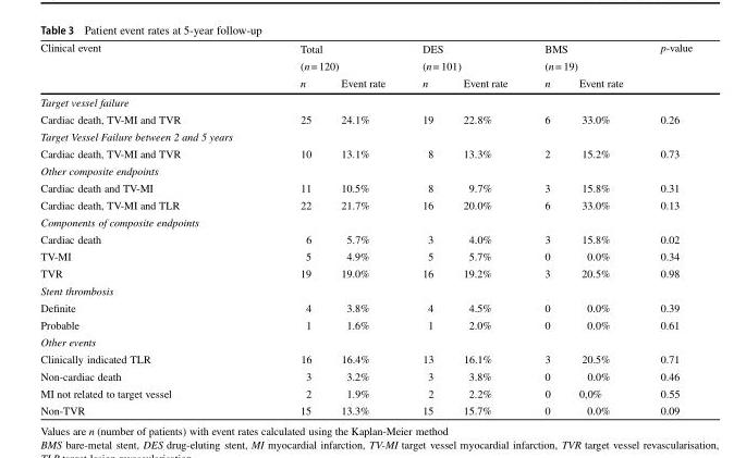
<table><thead><tr><td rowspan="3">Clinical event</td><td rowspan="2" colspan="2">Total (n= 120)</td><td rowspan="2" colspan="2">DES (n= 101)</td><td rowspan="2" colspan="2">BMS (n= 19)</td><td rowspan="3">p-value</td></tr><tr></tr><tr><td>n</td><td>Event rate</td><td>n</td><td>Event rate</td><td>n</td><td>Event rate</td></tr></thead><tbody><tr><td colspan="8">Target vessel failure</td></tr><tr><td>Cardiac death, TV-MI and TVR</td><td>25</td><td>24.1%</td><td>19</td><td>22.8%</td><td>6</td><td>33.0%</td><td>0.26</td></tr><tr><td colspan="8">Target Vessel Failure between 2 and 5 years</td></tr><tr><td>Cardiac death, TV-MI and TVR</td><td>10</td><td>13.1%</td><td>8</td><td>13.3%</td><td>2</td><td>15.2%</td><td>0.73</td></tr><tr><td colspan="8">Other composite endpoints</td></tr><tr><td>Cardiac death and TV-MI</td><td>11</td><td>10.5%</td><td>8</td><td>9.7%</td><td>3</td><td>15.8%</td><td>0.31</td></tr><tr><td>Cardiac death, TV-MI and TLR</td><td>22</td><td>21.7%</td><td>16</td><td>20.0%</td><td>6</td><td>33.0%</td><td>0.13</td></tr><tr><td colspan="8">Components of composite endpoints</td></tr><tr><td>Cardiac death</td><td>6</td><td>5.7%</td><td>3</td><td>4.0%</td><td>3</td><td>15.8%</td><td>0.02</td></tr><tr><td>TV-MI</td><td>5</td><td>4.9%</td><td>5</td><td>5.7%</td><td>0</td><td>0.0%</td><td>0.34</td></tr><tr><td>TVR</td><td>19</td><td>19.0%</td><td>16</td><td>19.2%</td><td>3</td><td>20.5%</td><td>0.98</td></tr><tr><td colspan="8">Stent thrombosis</td></tr><tr><td>Definite</td><td>4</td><td>3.8%</td><td>4</td><td>4.5%</td><td>0</td><td>0.0%</td><td>0.39</td></tr><tr><td>Probable</td><td>1</td><td>1.6%</td><td>1</td><td>2.0%</td><td>0</td><td>0.0%</td><td>0.61</td></tr><tr><td colspan="8">Other events</td></tr><tr><td>Clinically indicated TLR</td><td>16</td><td>16.4%</td><td>13</td><td>16.1%</td><td>3</td><td>20.5%</td><td>0.71</td></tr><tr><td>Non-cardiac death</td><td>3</td><td>3.2%</td><td>3</td><td>3.8%</td><td>0</td><td>0.0%</td><td>0.46</td></tr><tr><td>MI not related to target vessel</td><td>2</td><td>1.9%</td><td>2</td><td>2.2%</td><td>0</td><td>0,0%</td><td>0.55</td></tr><tr><td>Non-TVR</td><td>15</td><td>13.3%</td><td>15</td><td>15.7%</td><td>0</td><td>0.0%</td><td>0.09</td></tr></tbody></table>